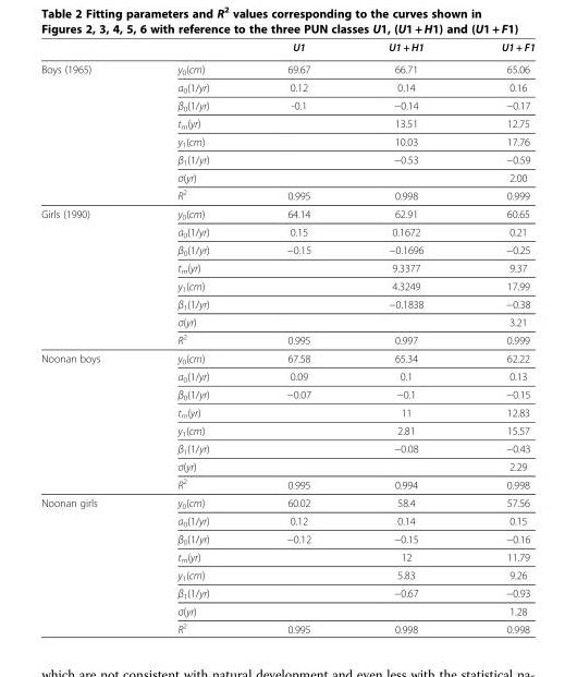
<table><thead><tr><td></td><td></td><td>U1</td><td>U1 + H1</td><td>U1 + F1</td></tr></thead><tbody><tr><td rowspan="8">Boys (1965)</td><td>y<sub>0</sub>(cm)</td><td>69.67</td><td>66.71</td><td>65.06</td></tr><tr><td>a<sub>0</sub>(1/yr)</td><td>0.12</td><td>0.14</td><td>0.16</td></tr><tr><td>β<sub>0</sub>(1/yr)</td><td>-0.1</td><td>−0.14</td><td>−0.17</td></tr><tr><td>t<sub>m</sub>(yr)</td><td></td><td>13.51</td><td>12.75</td></tr><tr><td>y<sub>1</sub>(cm)</td><td></td><td>10.03</td><td>17.76</td></tr><tr><td>β<sub>1</sub>(1/yr)</td><td></td><td>−0.53</td><td>−0.59</td></tr><tr><td>σ(yr)</td><td></td><td></td><td>2.00</td></tr><tr><td>R<sup>2</sup></td><td>0.995</td><td>0.998</td><td>0.999</td></tr><tr><td rowspan="8">Girls (1990)</td><td>y<sub>0</sub>(cm)</td><td>64.14</td><td>62.91</td><td>60.65</td></tr><tr><td>a<sub>0</sub>(1/yr)</td><td>0.15</td><td>0.1672</td><td>0.21</td></tr><tr><td>β<sub>0</sub>(1/yr)</td><td>−0.15</td><td>−0.1696</td><td>−0.25</td></tr><tr><td>t<sub>m</sub>(yr)</td><td></td><td>9.3377</td><td>9.37</td></tr><tr><td>y<sub>1</sub>(cm)</td><td></td><td>4.3249</td><td>17.99</td></tr><tr><td>β<sub>1</sub>(1/yr)</td><td></td><td>−0.1838</td><td>−0.38</td></tr><tr><td>σ(yr)</td><td></td><td></td><td>3.21</td></tr><tr><td>R<sup>2</sup></td><td>0.995</td><td>0.997</td><td>0.999</td></tr><tr><td rowspan="8">Noonan boys</td><td>y<sub>0</sub>(cm)</td><td>67.58</td><td>65.34</td><td>62.22</td></tr><tr><td>a<sub>0</sub>(1/yr)</td><td>0.09</td><td>0.1</td><td>0.13</td></tr><tr><td>β<sub>0</sub>(1/yr)</td><td>−0.07</td><td>−0.1</td><td>−0.15</td></tr><tr><td>t<sub>m</sub>(yr)</td><td></td><td>11</td><td>12.83</td></tr><tr><td>y<sub>1</sub>(cm)</td><td></td><td>2.81</td><td>15.57</td></tr><tr><td>β<sub>1</sub>(1/yr)</td><td></td><td>−0.08</td><td>−0.43</td></tr><tr><td>σ(yr)</td><td></td><td></td><td>2.29</td></tr><tr><td>R<sup>2</sup></td><td>0.995</td><td>0.994</td><td>0.998</td></tr><tr><td rowspan="8">Noonan girls</td><td>y<sub>0</sub>(cm)</td><td>60.02</td><td>58.4</td><td>57.56</td></tr><tr><td>a<sub>0</sub>(1/yr)</td><td>0.12</td><td>0.14</td><td>0.15</td></tr><tr><td>β<sub>0</sub>(1/yr)</td><td>−0.12</td><td>−0.15</td><td>−0.16</td></tr><tr><td>t<sub>m</sub>(yr)</td><td></td><td>12</td><td>11.79</td></tr><tr><td>y<sub>1</sub>(cm)</td><td></td><td>5.83</td><td>9.26</td></tr><tr><td>β<sub>1</sub>(1/yr)</td><td></td><td>−0.67</td><td>−0.93</td></tr><tr><td>σ(yr)</td><td></td><td></td><td>1.28</td></tr><tr><td>R<sup>2</sup></td><td>0.995</td><td>0.998</td><td>0.998</td></tr></tbody></table>